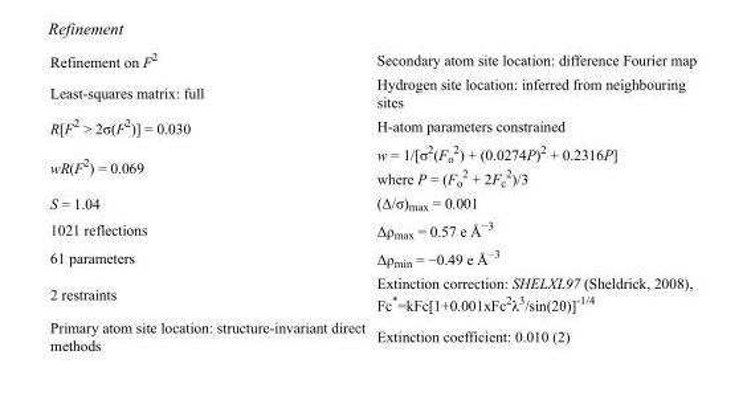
<table><tbody><tr><td>Refinement on F<sup>2</sup></td><td>Secondary atom site location: difference Fourier map</td></tr><tr><td>Least-squares matrix: full</td><td>Hydrogen site location: inferred from neighbouring sites</td></tr><tr><td>R[F<sup>2</sup> &gt; 2σ(F<sup>2</sup>)] = 0.030</td><td>H-atom parameters constrained</td></tr><tr><td>wR(F<sup>2</sup>) = 0.069</td><td>w = 1/[σ<sup>2</sup>(F<sub>o</sub> <sup>2</sup>) + (0.0274P)<sup>2</sup> + 0.2316P] where P = (F<sub>o</sub> <sup>2</sup> + 2F<sub>c</sub> <sup>2</sup>)/3</td></tr><tr><td>S = 1.04</td><td>(Δ/σ)<sub>max</sub> = 0.001</td></tr><tr><td>1021 reflections</td><td>Δρ<sub>max</sub> = 0.57 e Å<sup>−3</sup></td></tr><tr><td>61 parameters</td><td>Δρ<sub>min</sub> = −0.49 e Å<sup>−3</sup></td></tr><tr><td>2 restraints</td><td>Extinction correction: SHELXL97 (Sheldrick, 2008), Fc*=kFc[1+0.001xFc<sup>2</sup>λ<sup>3</sup>/sin(2θ)]<sup>-1/4</sup></td></tr><tr><td>Primary atom site location: structure-invariant direct methods</td><td>Extinction coefficient: 0.010 (2)</td></tr></tbody></table>